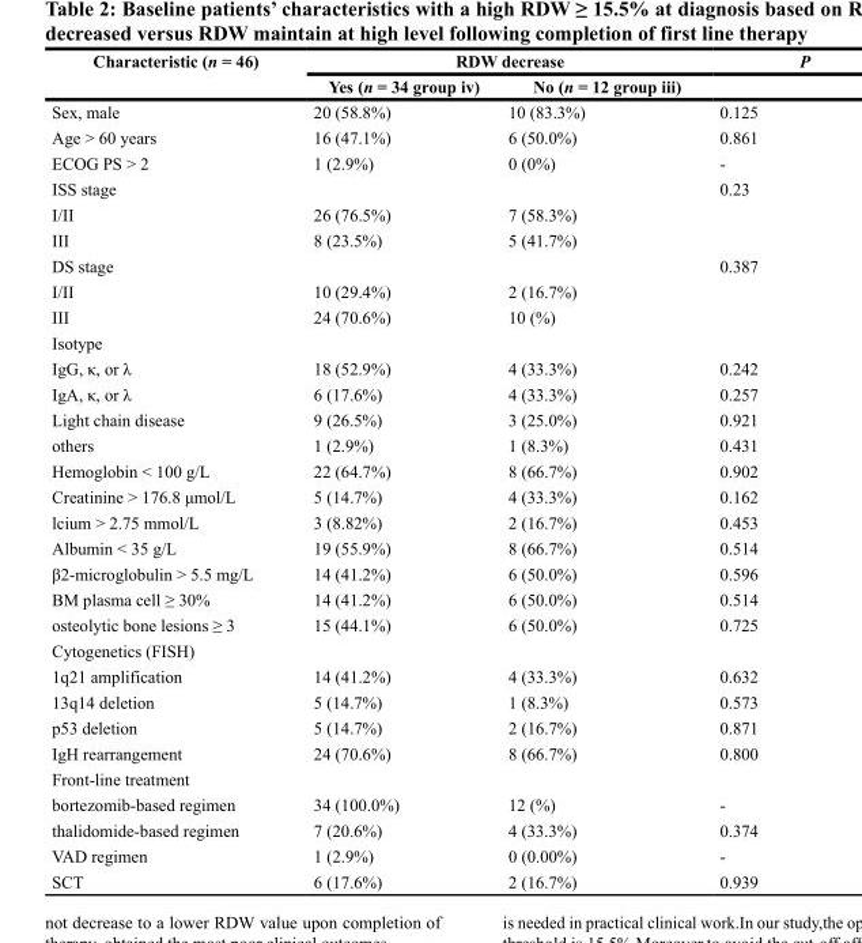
<table><thead><tr><td rowspan="2">Characteristic (n = 46)</td><td colspan="2">RDW decrease</td><td rowspan="2">P</td></tr><tr><td>Yes (n = 34 group iv)</td><td>No (n = 12 group iii)</td></tr></thead><tbody><tr><td>Sex, male</td><td>20 (58.8%)</td><td>10 (83.3%)</td><td>0.125</td></tr><tr><td>Age &gt; 60 years</td><td>16 (47.1%)</td><td>6 (50.0%)</td><td>0.861</td></tr><tr><td>ECOG PS &gt; 2</td><td>1 (2.9%)</td><td>0 (0%)</td><td>-</td></tr><tr><td>ISS stage</td><td></td><td></td><td>0.23</td></tr><tr><td>I/II</td><td>26 (76.5%)</td><td>7 (58.3%)</td><td></td></tr><tr><td>III</td><td>8 (23.5%)</td><td>5 (41.7%)</td><td></td></tr><tr><td>DS stage</td><td></td><td></td><td>0.387</td></tr><tr><td>I/II</td><td>10 (29.4%)</td><td>2 (16.7%)</td><td></td></tr><tr><td>III</td><td>24 (70.6%)</td><td>10 (%)</td><td></td></tr><tr><td colspan="4">Isotype</td></tr><tr><td>IgG, κ, or λ</td><td>18 (52.9%)</td><td>4 (33.3%)</td><td>0.242</td></tr><tr><td>IgA, κ, or λ</td><td>6 (17.6%)</td><td>4 (33.3%)</td><td>0.257</td></tr><tr><td>Light chain disease</td><td>9 (26.5%)</td><td>3 (25.0%)</td><td>0.921</td></tr><tr><td>others</td><td>1 (2.9%)</td><td>1 (8.3%)</td><td>0.431</td></tr><tr><td>Hemoglobin &lt; 100 g/L</td><td>22 (64.7%)</td><td>8 (66.7%)</td><td>0.902</td></tr><tr><td>Creatinine &gt; 176.8 μmol/L</td><td>5 (14.7%)</td><td>4 (33.3%)</td><td>0.162</td></tr><tr><td>lcium &gt; 2.75 mmol/L</td><td>3 (8.82%)</td><td>2 (16.7%)</td><td>0.453</td></tr><tr><td>Albumin &lt; 35 g/L</td><td>19 (55.9%)</td><td>8 (66.7%)</td><td>0.514</td></tr><tr><td>β2-microglobulin &gt; 5.5 mg/L</td><td>14 (41.2%)</td><td>6 (50.0%)</td><td>0.596</td></tr><tr><td>BM plasma cell ≥ 30%</td><td>14 (41.2%)</td><td>6 (50.0%)</td><td>0.514</td></tr><tr><td>osteolytic bone lesions ≥ 3</td><td>15 (44.1%)</td><td>6 (50.0%)</td><td>0.725</td></tr><tr><td colspan="4">Cytogenetics (FISH)</td></tr><tr><td>1q21 amplification</td><td>14 (41.2%)</td><td>4 (33.3%)</td><td>0.632</td></tr><tr><td>13q14 deletion</td><td>5 (14.7%)</td><td>1 (8.3%)</td><td>0.573</td></tr><tr><td>p53 deletion</td><td>5 (14.7%)</td><td>2 (16.7%)</td><td>0.871</td></tr><tr><td>IgH rearrangement</td><td>24 (70.6%)</td><td>8 (66.7%)</td><td>0.800</td></tr><tr><td colspan="4">Front-line treatment</td></tr><tr><td>bortezomib-based regimen</td><td>34 (100.0%)</td><td>12 (%)</td><td>-</td></tr><tr><td>thalidomide-based regimen</td><td>7 (20.6%)</td><td>4 (33.3%)</td><td>0.374</td></tr><tr><td>VAD regimen</td><td>1 (2.9%)</td><td>0 (0.00%)</td><td>-</td></tr><tr><td>SCT</td><td>6 (17.6%)</td><td>2 (16.7%)</td><td>0.939</td></tr></tbody></table>